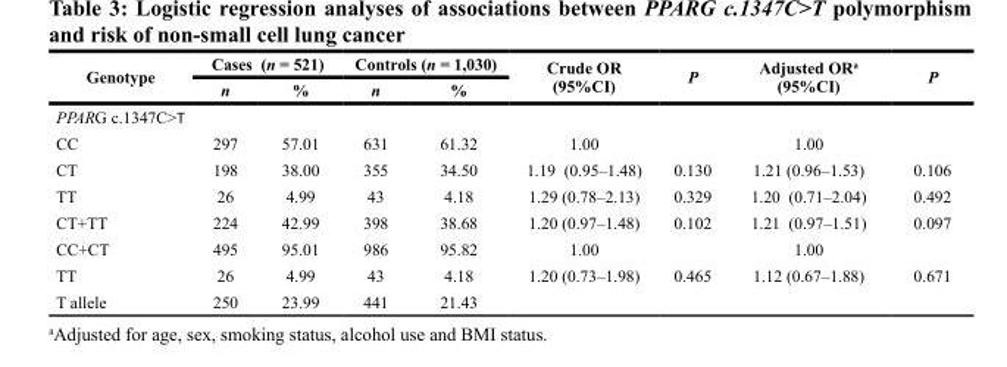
<table><thead><tr><td rowspan="2">Genotype</td><td colspan="2">Cases (n = 521)</td><td colspan="2">Controls (n = 1,030)</td><td rowspan="2">Crude OR (95%CI)</td><td rowspan="2">P</td><td rowspan="2">Adjusted OR<sup>a</sup> (95%CI)</td><td rowspan="2">P</td></tr><tr><td>n</td><td>%</td><td>n</td><td>%</td></tr></thead><tbody><tr><td colspan="9">PPARG c.1347C&gt;T</td></tr><tr><td>CC</td><td>297</td><td>57.01</td><td>631</td><td>61.32</td><td>1.00</td><td></td><td>1.00</td><td></td></tr><tr><td>CT</td><td>198</td><td>38.00</td><td>355</td><td>34.50</td><td>1.19 (0.95–1.48)</td><td>0.130</td><td>1.21 (0.96–1.53)</td><td>0.106</td></tr><tr><td>TT</td><td>26</td><td>4.99</td><td>43</td><td>4.18</td><td>1.29 (0.78–2.13)</td><td>0.329</td><td>1.20 (0.71–2.04)</td><td>0.492</td></tr><tr><td>CT+TT</td><td>224</td><td>42.99</td><td>398</td><td>38.68</td><td>1.20 (0.97–1.48)</td><td>0.102</td><td>1.21 (0.97–1.51)</td><td>0.097</td></tr><tr><td>CC+CT</td><td>495</td><td>95.01</td><td>986</td><td>95.82</td><td>1.00</td><td></td><td>1.00</td><td></td></tr><tr><td>TT</td><td>26</td><td>4.99</td><td>43</td><td>4.18</td><td>1.20 (0.73–1.98)</td><td>0.465</td><td>1.12 (0.67–1.88)</td><td>0.671</td></tr><tr><td>T allele</td><td>250</td><td>23.99</td><td>441</td><td>21.43</td><td></td><td></td><td></td><td></td></tr></tbody></table>